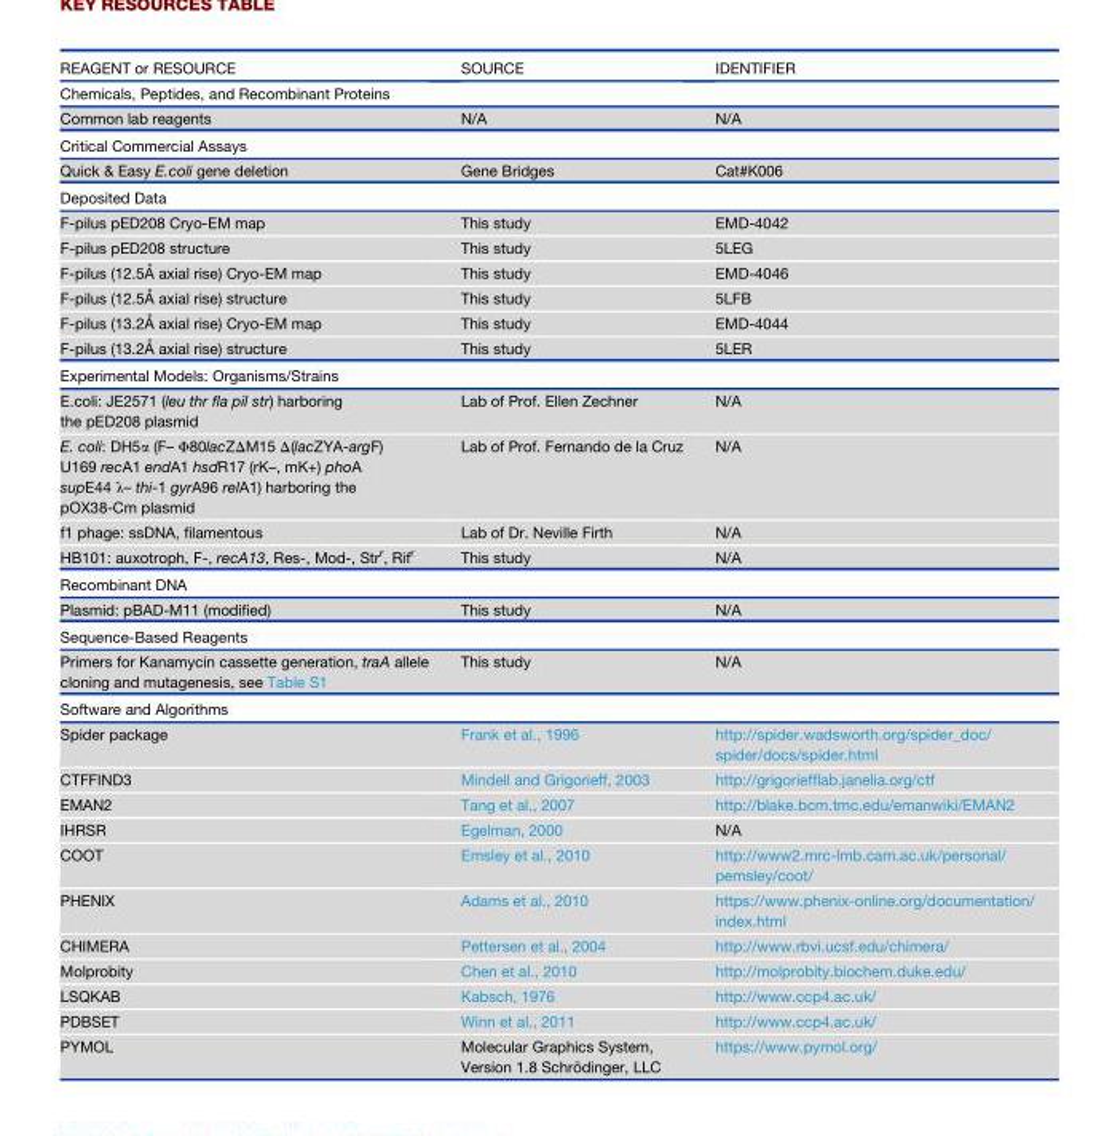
<table><thead><tr><td>REAGENT or RESOURCE</td><td>SOURCE</td><td>IDENTIFIER</td></tr></thead><tbody><tr><td colspan="3">Chemicals, Peptides, and Recombinant Proteins</td></tr><tr><td>Common lab reagents</td><td>N/A</td><td>N/A</td></tr><tr><td colspan="3">Critical Commercial Assays</td></tr><tr><td>Quick &amp; Easy E.coli gene deletion</td><td>Gene Bridges</td><td>Cat#K006</td></tr><tr><td colspan="3">Deposited Data</td></tr><tr><td>F-pilus pED208 Cryo-EM map</td><td>This study</td><td>EMD-4042</td></tr><tr><td>F-pilus pED208 structure</td><td>This study</td><td>5LEG</td></tr><tr><td>F-pilus (12.5A˚ axial rise) Cryo-EM map</td><td>This study</td><td>EMD-4046</td></tr><tr><td>F-pilus (12.5A˚ axial rise) structure</td><td>This study</td><td>5LFB</td></tr><tr><td>F-pilus (13.2A˚ axial rise) Cryo-EM map</td><td>This study</td><td>EMD-4044</td></tr><tr><td>F-pilus (13.2A˚ axial rise) structure</td><td>This study</td><td>5LER</td></tr><tr><td colspan="3">Experimental Models: Organisms/Strains</td></tr><tr><td>E.coli: JE2571 (leu thr fla pil str) harboring the pED208 plasmid</td><td>Lab of Prof. Ellen Zechner</td><td>N/A</td></tr><tr><td>E. coli: DH5α (F– Φ80lacZΔM15 Δ(lacZYA-argF) U169 recA1 endA1 hsdR17 (rK–, mK+) phoA supE44 λ– thi-1 gyrA96 relA1) harboring the pOX38-Cm plasmid</td><td>Lab of Prof. Fernando de la Cruz</td><td>N/A</td></tr><tr><td>f1 phage: ssDNA, filamentous</td><td>Lab of Dr. Neville Firth</td><td>N/A</td></tr><tr><td>HB101: auxotroph, F-, recA13, Res-, Mod-, Str<sup>r</sup>, Rif<sup>r</sup></td><td>This study</td><td>N/A</td></tr><tr><td colspan="3">Recombinant DNA</td></tr><tr><td>Plasmid: pBAD-M11 (modified)</td><td>This study</td><td>N/A</td></tr><tr><td colspan="3">Sequence-Based Reagents</td></tr><tr><td>Primers for Kanamycin cassette generation, traA allele cloning and mutagenesis, see Table S1</td><td>This study</td><td>N/A</td></tr><tr><td colspan="3">Software and Algorithms</td></tr><tr><td>Spider package</td><td>Frank et al., 1996</td><td>http://spider.wadsworth.org/spider_doc/ spider/docs/spider.html</td></tr><tr><td>CTFFIND3</td><td>Mindell and Grigorieff, 2003</td><td>http://grigoriefflab.janelia.org/ctf</td></tr><tr><td>EMAN2</td><td>Tang et al., 2007</td><td>http://blake.bcm.tmc.edu/emanwiki/EMAN2</td></tr><tr><td>IHRSR</td><td>Egelman, 2000</td><td>N/A</td></tr><tr><td>COOT</td><td>Emsley et al., 2010</td><td>http://www2.mrc-lmb.cam.ac.uk/personal/ pemsley/coot/</td></tr><tr><td>PHENIX</td><td>Adams et al., 2010</td><td>https://www.phenix-online.org/documentation/ index.html</td></tr><tr><td>CHIMERA</td><td>Pettersen et al., 2004</td><td>http://www.rbvi.ucsf.edu/chimera/</td></tr><tr><td>Molprobity</td><td>Chen et al., 2010</td><td>http://molprobity.biochem.duke.edu/</td></tr><tr><td>LSQKAB</td><td>Kabsch, 1976</td><td>http://www.ccp4.ac.uk/</td></tr><tr><td>PDBSET</td><td>Winn et al., 2011</td><td>http://www.ccp4.ac.uk/</td></tr><tr><td>PYMOL</td><td>Molecular Graphics System, Version 1.8 Schro¨ dinger, LLC</td><td>https://www.pymol.org/</td></tr></tbody></table>